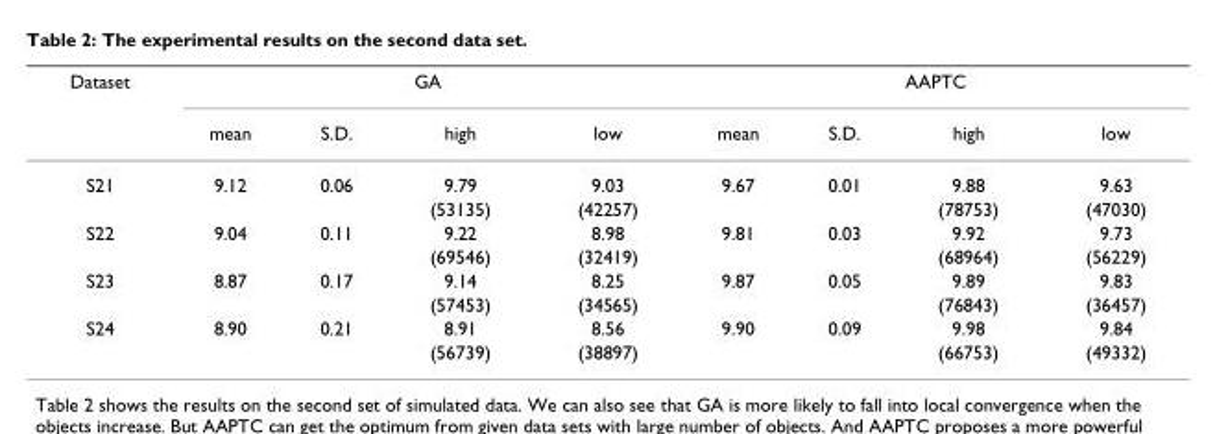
<table><thead><tr><td rowspan="2">Dataset</td><td colspan="4">GA</td><td colspan="4">AAPTC</td></tr><tr><td>mean</td><td>S.D.</td><td>high</td><td>low</td><td>mean</td><td>S.D.</td><td>high</td><td>low</td></tr></thead><tbody><tr><td rowspan="2">S21</td><td>9.12</td><td>0.06</td><td>9.79</td><td>9.03</td><td>9.67</td><td>0.01</td><td>9.88</td><td>9.63</td></tr><tr><td></td><td></td><td>(53135)</td><td>(42257)</td><td></td><td></td><td>(78753)</td><td>(47030)</td></tr><tr><td rowspan="2">S22</td><td>9.04</td><td>0.11</td><td>9.22</td><td>8.98</td><td>9.81</td><td>0.03</td><td>9.92</td><td>9.73</td></tr><tr><td></td><td></td><td>(69546)</td><td>(32419)</td><td></td><td></td><td>(68964)</td><td>(56229)</td></tr><tr><td rowspan="2">S23</td><td>8.87</td><td>0.17</td><td>9.14</td><td>8.25</td><td>9.87</td><td>0.05</td><td>9.89</td><td>9.83</td></tr><tr><td></td><td></td><td>(57453)</td><td>(34565)</td><td></td><td></td><td>(76843)</td><td>(36457)</td></tr><tr><td rowspan="2">S24</td><td>8.90</td><td>0.21</td><td>8.91</td><td>8.56</td><td>9.90</td><td>0.09</td><td>9.98</td><td>9.84</td></tr><tr><td></td><td></td><td>(56739)</td><td>(38897)</td><td></td><td></td><td>(66753)</td><td>(49332)</td></tr></tbody></table>